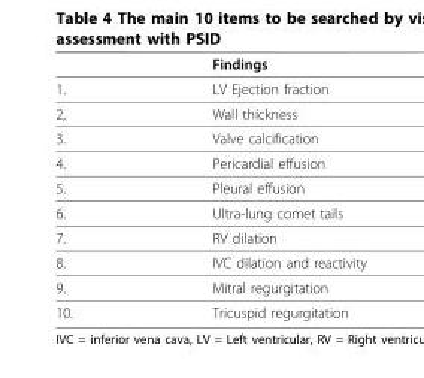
<table><thead><tr><td></td><td>Findings</td></tr></thead><tbody><tr><td>1.</td><td>LV Ejection fraction</td></tr><tr><td>2,</td><td>Wall thickness</td></tr><tr><td>3.</td><td>Valve calcification</td></tr><tr><td>4.</td><td>Pericardial effusion</td></tr><tr><td>5.</td><td>Pleural effusion</td></tr><tr><td>6.</td><td>Ultra-lung comet tails</td></tr><tr><td>7.</td><td>RV dilation</td></tr><tr><td>8.</td><td>IVC dilation and reactivity</td></tr><tr><td>9.</td><td>Mitral regurgitation</td></tr><tr><td>10.</td><td>Tricuspid regurgitation</td></tr></tbody></table>